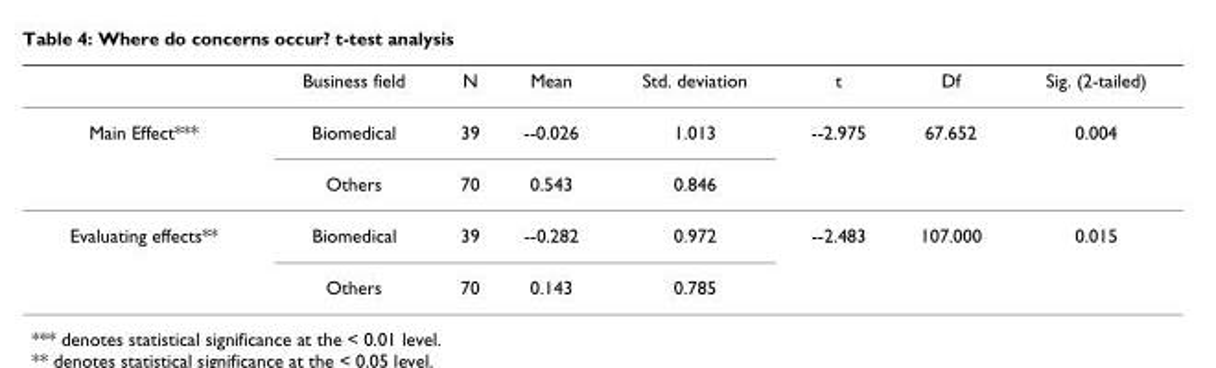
<table><thead><tr><td></td><td>Business field</td><td>N</td><td>Mean</td><td>Std. deviation</td><td>t</td><td>Df</td><td>Sig. (2-tailed)</td></tr></thead><tbody><tr><td rowspan="2">Main Effect***</td><td>Biomedical</td><td>39</td><td>--0.026</td><td>1.013</td><td>--2.975</td><td>67.652</td><td>0.004</td></tr><tr><td>Others</td><td>70</td><td>0.543</td><td>0.846</td><td></td><td></td><td></td></tr><tr><td rowspan="2">Evaluating effects**</td><td>Biomedical</td><td>39</td><td>--0.282</td><td>0.972</td><td>--2.483</td><td>107.000</td><td>0.015</td></tr><tr><td>Others</td><td>70</td><td>0.143</td><td>0.785</td><td></td><td></td><td></td></tr></tbody></table>